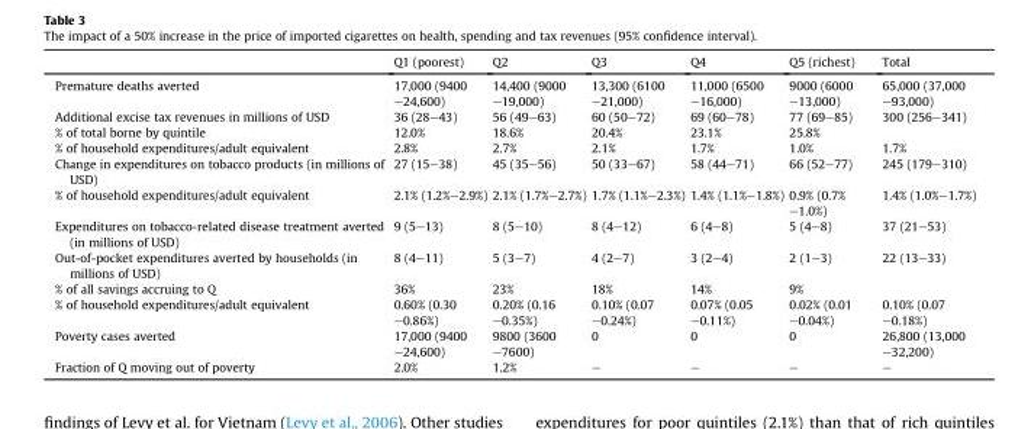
<table><thead><tr><td></td><td>Q1 (poorest)</td><td>Q2</td><td>Q3</td><td>Q4</td><td>Q5 (richest)</td><td>Total</td></tr></thead><tbody><tr><td>Premature deaths averted</td><td>17,000 (9400 –24,600)</td><td>14,400 (9000 –19,000)</td><td>13,300 (6100 –21,000)</td><td>11,000 (6500 –16,000)</td><td>9000 (6000 –13,000)</td><td>65,000 (37,000 –93,000)</td></tr><tr><td>Additional excise tax revenues in millions of USD</td><td>36 (28–43)</td><td>56 (49–63)</td><td>60 (50–72)</td><td>69 (60–78)</td><td>77 (69–85)</td><td>300 (256–341)</td></tr><tr><td>% of total borne by quintile</td><td>12.0%</td><td>18.6%</td><td>20.4%</td><td>23.1%</td><td>25.8%</td><td></td></tr><tr><td>% of household expenditures/adult equivalent</td><td>2.8%</td><td>2.7%</td><td>2.1%</td><td>1.7%</td><td>1.0%</td><td>1.7%</td></tr><tr><td>Change in expenditures on tobacco products (in millions of USD)</td><td>27 (15–38)</td><td>45 (35–56)</td><td>50 (33–67)</td><td>58 (44–71)</td><td>66 (52–77)</td><td>245 (179–310)</td></tr><tr><td>% of household expenditures/adult equivalent</td><td>2.1% (1.2%–2.9%)</td><td>2.1% (1.7%–2.7%)</td><td>1.7% (1.1%–2.3%)</td><td>1.4% (1.1%–1.8%)</td><td>0.9% (0.7% –1.0%)</td><td>1.4% (1.0%–1.7%)</td></tr><tr><td>Expenditures on tobacco-related disease treatment averted (in millions of USD)</td><td>9 (5–13)</td><td>8 (5–10)</td><td>8 (4–12)</td><td>6 (4–8)</td><td>5 (4–8)</td><td>37 (21–53)</td></tr><tr><td>Out-of-pocket expenditures averted by households (in millions of USD)</td><td>8 (4–11)</td><td>5 (3–7)</td><td>4 (2–7)</td><td>3 (2–4)</td><td>2 (1–3)</td><td>22 (13–33)</td></tr><tr><td>% of all savings accruing to Q</td><td>36%</td><td>23%</td><td>18%</td><td>14%</td><td>9%</td><td></td></tr><tr><td>% of household expenditures/adult equivalent</td><td>0.60% (0.30 –0.86%)</td><td>0.20% (0.16 –0.35%)</td><td>0.10% (0.07 –0.24%)</td><td>0.07% (0.05 –0.11%)</td><td>0.02% (0.01 –0.04%)</td><td>0.10% (0.07 –0.18%)</td></tr><tr><td>Poverty cases averted</td><td>17,000 (9400 –24,600)</td><td>9800 (3600 –7600)</td><td>0</td><td>0</td><td>0</td><td>26,800 (13,000 –32,200)</td></tr><tr><td>Fraction of Q moving out of poverty</td><td>2.0%</td><td>1.2%</td><td>–</td><td>–</td><td>–</td><td>–</td></tr></tbody></table>